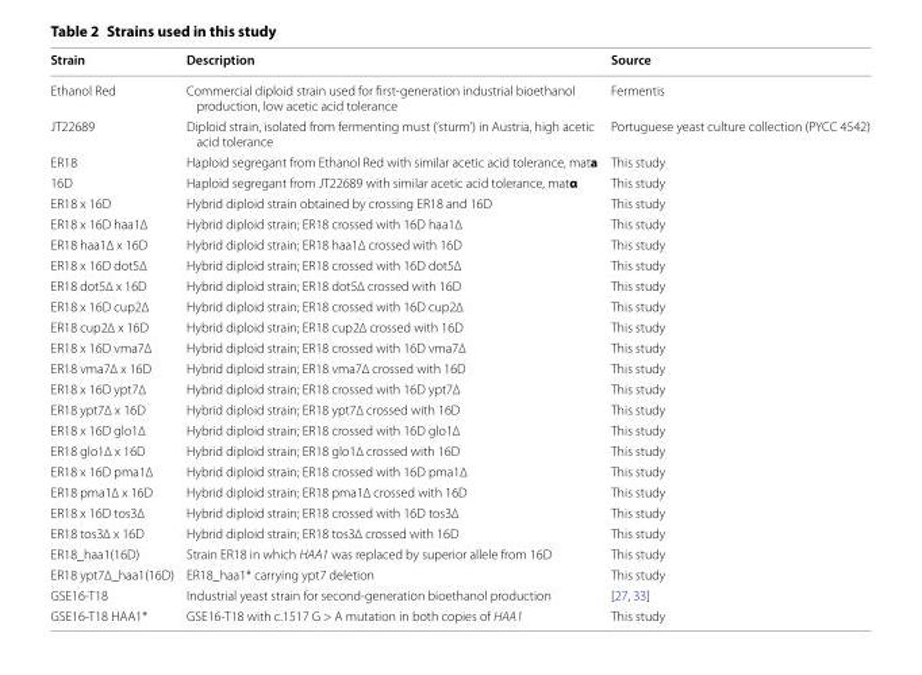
<table><thead><tr><td>Strain</td><td>Description</td><td>Source</td></tr></thead><tbody><tr><td>Ethanol Red</td><td>Commercial diploid strain used for first‑generation industrial bioethanol production, low acetic acid tolerance</td><td>Fermentis</td></tr><tr><td>JT22689</td><td>Diploid strain, isolated from fermenting must (‘sturm’) in Austria, high acetic acid tolerance</td><td>Portuguese yeast culture collection (PYCC 4542)</td></tr><tr><td>ER18</td><td>Haploid segregant from Ethanol Red with similar acetic acid tolerance, mata</td><td>This study</td></tr><tr><td>16D</td><td>Haploid segregant from JT22689 with similar acetic acid tolerance, matα</td><td>This study</td></tr><tr><td>ER18 x 16D</td><td>Hybrid diploid strain obtained by crossing ER18 and 16D</td><td>This study</td></tr><tr><td>ER18 x 16D haa1∆</td><td>Hybrid diploid strain; ER18 crossed with 16D haa1∆</td><td>This study</td></tr><tr><td>ER18 haa1∆ x 16D</td><td>Hybrid diploid strain; ER18 haa1∆ crossed with 16D</td><td>This study</td></tr><tr><td>ER18 x 16D dot5∆</td><td>Hybrid diploid strain; ER18 crossed with 16D dot5∆</td><td>This study</td></tr><tr><td>ER18 dot5∆ x 16D</td><td>Hybrid diploid strain; ER18 dot5∆ crossed with 16D</td><td>This study</td></tr><tr><td>ER18 x 16D cup2∆</td><td>Hybrid diploid strain; ER18 crossed with 16D cup2∆</td><td>This study</td></tr><tr><td>ER18 cup2∆ x 16D</td><td>Hybrid diploid strain; ER18 cup2∆ crossed with 16D</td><td>This study</td></tr><tr><td>ER18 x 16D vma7∆</td><td>Hybrid diploid strain; ER18 crossed with 16D vma7∆</td><td>This study</td></tr><tr><td>ER18 vma7∆ x 16D</td><td>Hybrid diploid strain; ER18 vma7∆ crossed with 16D</td><td>This study</td></tr><tr><td>ER18 x 16D ypt7∆</td><td>Hybrid diploid strain; ER18 crossed with 16D ypt7∆</td><td>This study</td></tr><tr><td>ER18 ypt7∆ x 16D</td><td>Hybrid diploid strain; ER18 ypt7∆ crossed with 16D</td><td>This study</td></tr><tr><td>ER18 x 16D glo1∆</td><td>Hybrid diploid strain; ER18 crossed with 16D glo1∆</td><td>This study</td></tr><tr><td>ER18 glo1∆ x 16D</td><td>Hybrid diploid strain; ER18 glo1∆ crossed with 16D</td><td>This study</td></tr><tr><td>ER18 x 16D pma1∆</td><td>Hybrid diploid strain; ER18 crossed with 16D pma1∆</td><td>This study</td></tr><tr><td>ER18 pma1∆ x 16D</td><td>Hybrid diploid strain; ER18 pma1∆ crossed with 16D</td><td>This study</td></tr><tr><td>ER18 x 16D tos3∆</td><td>Hybrid diploid strain; ER18 crossed with 16D tos3∆</td><td>This study</td></tr><tr><td>ER18 tos3∆ x 16D</td><td>Hybrid diploid strain; ER18 tos3∆ crossed with 16D</td><td>This study</td></tr><tr><td>ER18_haa1(16D)</td><td>Strain ER18 in which HAA1 was replaced by superior allele from 16D</td><td>This study</td></tr><tr><td>ER18 ypt7∆_haa1(16D)</td><td>ER18_haa1* carrying ypt7 deletion</td><td>This study</td></tr><tr><td>GSE16‑T18</td><td>Industrial yeast strain for second‑generation bioethanol production</td><td>[27, 33]</td></tr><tr><td>GSE16‑T18 HAA1*</td><td>GSE16‑T18 with c.1517 G &gt; A mutation in both copies of HAA1</td><td>This study</td></tr></tbody></table>